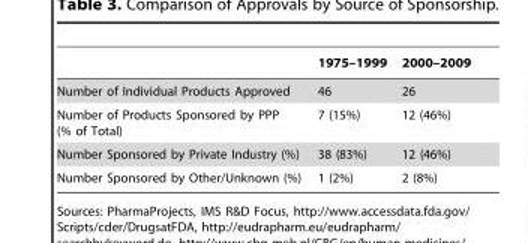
<table><thead><tr><td></td><td>1975–1999</td><td>2000–2009</td></tr></thead><tbody><tr><td>Number of Individual Products Approved</td><td>46</td><td>26</td></tr><tr><td>Number of Products Sponsored by PPP (% of Total)</td><td>7 (15%)</td><td>12 (46%)</td></tr><tr><td>Number Sponsored by Private Industry (%)</td><td>38 (83%)</td><td>12 (46%)</td></tr><tr><td>Number Sponsored by Other/Unknown (%)</td><td>1 (2%)</td><td>2 (8%)</td></tr></tbody></table>